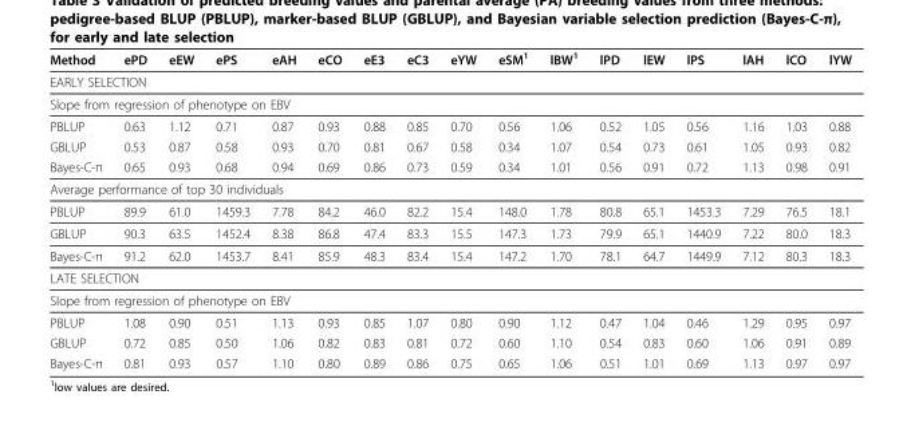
<table><thead><tr><td>Method</td><td>ePD</td><td>eEW</td><td>ePS</td><td>eAH</td><td>eCO</td><td>eE3</td><td>eC3</td><td>eYW</td><td>eSM<sup>1</sup></td><td>lBW<sup>1</sup></td><td>lPD</td><td>lEW</td><td>lPS</td><td>lAH</td><td>lCO</td><td>lYW</td></tr></thead><tbody><tr><td colspan="17">EARLY SELECTION</td></tr><tr><td colspan="17">Slope from regression of phenotype on EBV</td></tr><tr><td>PBLUP</td><td>0.63</td><td>1.12</td><td>0.71</td><td>0.87</td><td>0.93</td><td>0.88</td><td>0.85</td><td>0.70</td><td>0.56</td><td>1.06</td><td>0.52</td><td>1.05</td><td>0.56</td><td>1.16</td><td>1.03</td><td>0.88</td></tr><tr><td>GBLUP</td><td>0.53</td><td>0.87</td><td>0.58</td><td>0.93</td><td>0.70</td><td>0.81</td><td>0.67</td><td>0.58</td><td>0.34</td><td>1.07</td><td>0.54</td><td>0.73</td><td>0.61</td><td>1.05</td><td>0.93</td><td>0.82</td></tr><tr><td>Bayes-C-π</td><td>0.65</td><td>0.93</td><td>0.68</td><td>0.94</td><td>0.69</td><td>0.86</td><td>0.73</td><td>0.59</td><td>0.34</td><td>1.01</td><td>0.56</td><td>0.91</td><td>0.72</td><td>1.13</td><td>0.98</td><td>0.91</td></tr><tr><td colspan="17">Average performance of top 30 individuals</td></tr><tr><td>PBLUP</td><td>89.9</td><td>61.0</td><td>1459.3</td><td>7.78</td><td>84.2</td><td>46.0</td><td>82.2</td><td>15.4</td><td>148.0</td><td>1.78</td><td>80.8</td><td>65.1</td><td>1453.3</td><td>7.29</td><td>76.5</td><td>18.1</td></tr><tr><td>GBLUP</td><td>90.3</td><td>63.5</td><td>1452.4</td><td>8.38</td><td>86.8</td><td>47.4</td><td>83.3</td><td>15.5</td><td>147.3</td><td>1.73</td><td>79.9</td><td>65.1</td><td>1440.9</td><td>7.22</td><td>80.0</td><td>18.3</td></tr><tr><td>Bayes-C-π</td><td>91.2</td><td>62.0</td><td>1453.7</td><td>8.41</td><td>85.9</td><td>48.3</td><td>83.4</td><td>15.4</td><td>147.2</td><td>1.70</td><td>78.1</td><td>64.7</td><td>1449.9</td><td>7.12</td><td>80.3</td><td>18.3</td></tr><tr><td colspan="17">LATE SELECTION</td></tr><tr><td colspan="17">Slope from regression of phenotype on EBV</td></tr><tr><td>PBLUP</td><td>1.08</td><td>0.90</td><td>0.51</td><td>1.13</td><td>0.93</td><td>0.85</td><td>1.07</td><td>0.80</td><td>0.90</td><td>1.12</td><td>0.47</td><td>1.04</td><td>0.46</td><td>1.29</td><td>0.95</td><td>0.97</td></tr><tr><td>GBLUP</td><td>0.72</td><td>0.85</td><td>0.50</td><td>1.06</td><td>0.82</td><td>0.83</td><td>0.81</td><td>0.72</td><td>0.60</td><td>1.10</td><td>0.54</td><td>0.83</td><td>0.60</td><td>1.06</td><td>0.91</td><td>0.89</td></tr><tr><td>Bayes-C-π</td><td>0.81</td><td>0.93</td><td>0.57</td><td>1.10</td><td>0.80</td><td>0.89</td><td>0.86</td><td>0.75</td><td>0.65</td><td>1.06</td><td>0.51</td><td>1.01</td><td>0.69</td><td>1.13</td><td>0.97</td><td>0.97</td></tr></tbody></table>